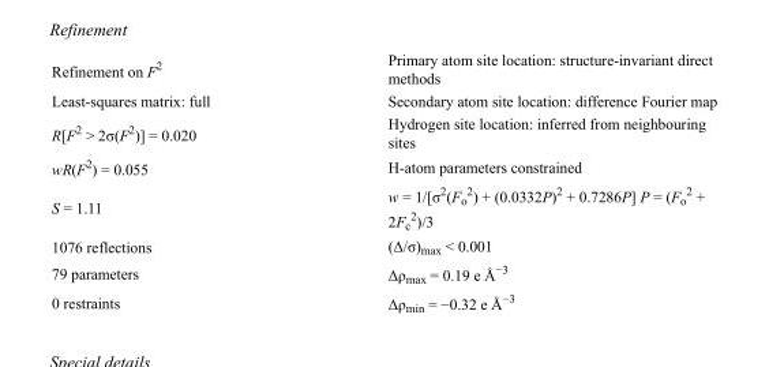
<table><tbody><tr><td>Refinement on F<sup>2</sup></td><td>Primary atom site location: structure-invariant direct methods</td></tr><tr><td>Least-squares matrix: full</td><td>Secondary atom site location: difference Fourier map</td></tr><tr><td>R[F<sup>2</sup> &gt; 2σ(F<sup>2</sup>)] = 0.020</td><td>Hydrogen site location: inferred from neighbouring sites</td></tr><tr><td>wR(F<sup>2</sup>) = 0.055</td><td>H-atom parameters constrained</td></tr><tr><td>S = 1.11</td><td>w = 1/[σ<sup>2</sup>(F<sub>o</sub> <sup>2</sup>) + (0.0332P)<sup>2</sup> + 0.7286P] P = (F<sub>o</sub> <sup>2</sup> + 2F<sub>c</sub> <sup>2</sup>)/3</td></tr><tr><td>1076 reflections</td><td>(Δ/σ)<sub>max</sub> &lt; 0.001</td></tr><tr><td>79 parameters</td><td>Δρ<sub>max</sub> = 0.19 e Å<sup>−3</sup></td></tr><tr><td>0 restraints</td><td>Δρ<sub>min</sub> = −0.32 e Å<sup>−3</sup></td></tr></tbody></table>